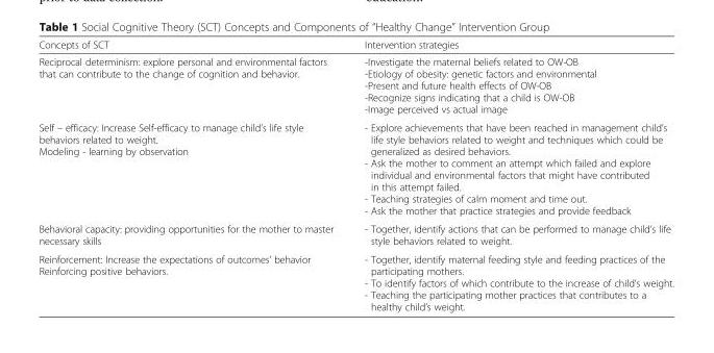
<table><thead><tr><td>Concepts of SCT</td><td>Intervention strategies</td></tr></thead><tbody><tr><td>Reciprocal determinism: explore personal and environmental factors that can contribute to the change of cognition and behavior.</td><td>-Investigate the maternal beliefs related to OW-OB -Etiology of obesity: genetic factors and environmental -Present and future health effects of OW-OB -Recognize signs indicating that a child is OW-OB -Image perceived vs actual image</td></tr><tr><td>Self – efficacy: Increase Self-efficacy to manage child’s life style behaviors related to weight. Modeling - learning by observation</td><td>- Explore achievements that have been reached in management child’s life style behaviors related to weight and techniques which could be generalized as desired behaviors. - Ask the mother to comment an attempt which failed and explore individual and environmental factors that might have contributed in this attempt failed. - Teaching strategies of calm moment and time out. - Ask the mother that practice strategies and provide feedback</td></tr><tr><td>Behavioral capacity: providing opportunities for the mother to master necessary skills</td><td>- Together, identify actions that can be performed to manage child’s life style behaviors related to weight.</td></tr><tr><td>Reinforcement: Increase the expectations of outcomes’ behavior Reinforcing positive behaviors.</td><td>- Together, identify maternal feeding style and feeding practices of the participating mothers. - To identify factors of which contribute to the increase of child’s weight. - Teaching the participating mother practices that contributes to a healthy child’s weight.</td></tr></tbody></table>